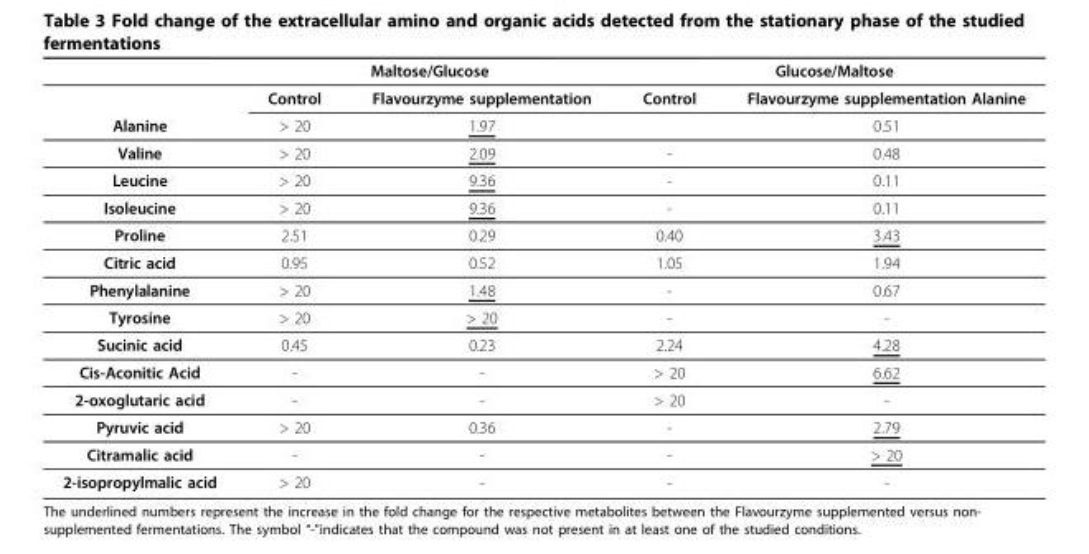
<table><thead><tr><td rowspan="2"></td><td colspan="2">Maltose/Glucose</td><td colspan="2">Glucose/Maltose</td></tr><tr><td>Control</td><td>Flavourzyme supplementation</td><td>Control</td><td>Flavourzyme supplementation Alanine</td></tr></thead><tbody><tr><td>Alanine</td><td>&gt; 20</td><td>1.97</td><td></td><td>0.51</td></tr><tr><td>Valine</td><td>&gt; 20</td><td>2.09</td><td>-</td><td>0.48</td></tr><tr><td>Leucine</td><td>&gt; 20</td><td>9.36</td><td>-</td><td>0.11</td></tr><tr><td>Isoleucine</td><td>&gt; 20</td><td>9.36</td><td>-</td><td>0.11</td></tr><tr><td>Proline</td><td>2.51</td><td>0.29</td><td>0.40</td><td>3.43</td></tr><tr><td>Citric acid</td><td>0.95</td><td>0.52</td><td>1.05</td><td>1.94</td></tr><tr><td>Phenylalanine</td><td>&gt; 20</td><td>1.48</td><td>-</td><td>0.67</td></tr><tr><td>Tyrosine</td><td>&gt; 20</td><td>&gt; 20</td><td>-</td><td>-</td></tr><tr><td>Sucinic acid</td><td>0.45</td><td>0.23</td><td>2.24</td><td>4.28</td></tr><tr><td>Cis-Aconitic Acid</td><td>-</td><td>-</td><td>&gt; 20</td><td>6.62</td></tr><tr><td>2-oxoglutaric acid</td><td>-</td><td>-</td><td>&gt; 20</td><td>-</td></tr><tr><td>Pyruvic acid</td><td>&gt; 20</td><td>0.36</td><td>-</td><td>2.79</td></tr><tr><td>Citramalic acid</td><td>-</td><td>-</td><td>-</td><td>&gt; 20</td></tr><tr><td>2-isopropylmalic acid</td><td>&gt; 20</td><td>-</td><td>-</td><td>-</td></tr></tbody></table>